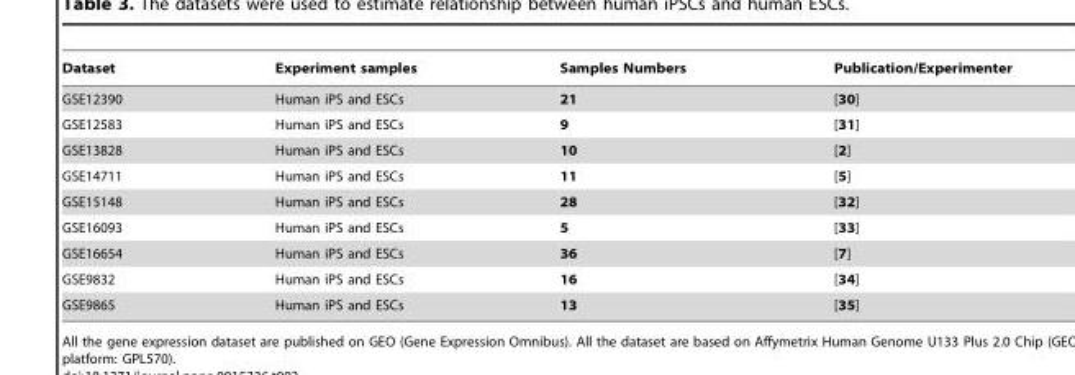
<table><thead><tr><td>Dataset</td><td>Experiment samples</td><td>Samples Numbers</td><td>Publication/Experimenter</td></tr></thead><tbody><tr><td>GSE12390</td><td>Human iPS and ESCs</td><td>21</td><td>[30]</td></tr><tr><td>GSE12583</td><td>Human iPS and ESCs</td><td>9</td><td>[31]</td></tr><tr><td>GSE13828</td><td>Human iPS and ESCs</td><td>10</td><td>[2]</td></tr><tr><td>GSE14711</td><td>Human iPS and ESCs</td><td>11</td><td>[5]</td></tr><tr><td>GSE15148</td><td>Human iPS and ESCs</td><td>28</td><td>[32]</td></tr><tr><td>GSE16093</td><td>Human iPS and ESCs</td><td>5</td><td>[33]</td></tr><tr><td>GSE16654</td><td>Human iPS and ESCs</td><td>36</td><td>[7]</td></tr><tr><td>GSE9832</td><td>Human iPS and ESCs</td><td>16</td><td>[34]</td></tr><tr><td>GSE9865</td><td>Human iPS and ESCs</td><td>13</td><td>[35]</td></tr></tbody></table>